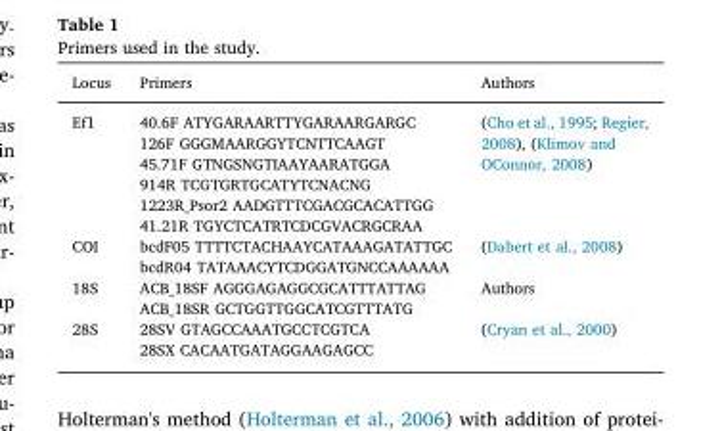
<table><thead><tr><td>Locus</td><td>Primers</td><td>Authors</td></tr></thead><tbody><tr><td rowspan="6">Ef1</td><td>40.6F ATYGARAARTTYGARAARGARGC</td><td rowspan="6">(Cho et al., 1995; Regier, 2008), (Klimov and OConnor, 2008)</td></tr><tr><td>126F GGGMAARGGYTCNTTCAAGT</td></tr><tr><td>45.71F GTNGSNGTIAAYAARATGGA</td></tr><tr><td>914R TCGTGRTGCATYTCNACNG</td></tr><tr><td>1223R_Psor2 AADGTTTCGACGCACATTGG</td></tr><tr><td>41.21R TGYCTCATRTCDCGVACRGCRAA</td></tr><tr><td rowspan="2">COI</td><td>bcdF05 TTTTCTACHAAYCATAAAGATATTGC</td><td rowspan="2">(Dabert et al., 2008)</td></tr><tr><td>bcdR04 TATAAACYTCDGGATGNCCAAAAAA</td></tr><tr><td rowspan="2">18S</td><td>ACB_18SF AGGGAGAGGCGCATTTATTAG</td><td rowspan="2">Authors</td></tr><tr><td>ACB_18SR GCTGGTTGGCATCGTTTATG</td></tr><tr><td rowspan="2">28S</td><td>28SV GTAGCCAAATGCCTCGTCA</td><td rowspan="2">(Cryan et al., 2000)</td></tr><tr><td>28SX CACAATGATAGGAAGAGCC</td></tr></tbody></table>